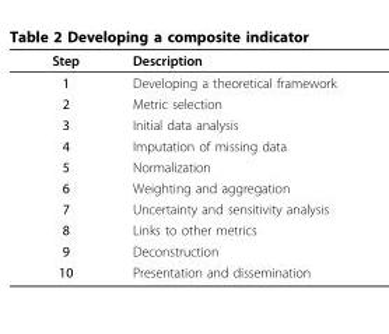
<table><thead><tr><td>Step</td><td>Description</td></tr></thead><tbody><tr><td>1</td><td>Developing a theoretical framework</td></tr><tr><td>2</td><td>Metric selection</td></tr><tr><td>3</td><td>Initial data analysis</td></tr><tr><td>4</td><td>Imputation of missing data</td></tr><tr><td>5</td><td>Normalization</td></tr><tr><td>6</td><td>Weighting and aggregation</td></tr><tr><td>7</td><td>Uncertainty and sensitivity analysis</td></tr><tr><td>8</td><td>Links to other metrics</td></tr><tr><td>9</td><td>Deconstruction</td></tr><tr><td>10</td><td>Presentation and dissemination</td></tr></tbody></table>